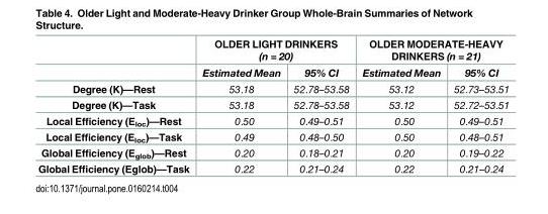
<table><thead><tr><td rowspan="2"></td><td colspan="2">OLDER LIGHT DRINKERS (n = 20)</td><td colspan="2">OLDER MODERATE-HEAVY DRINKERS (n = 21)</td></tr><tr><td>Estimated Mean</td><td>95% CI</td><td>Estimated Mean</td><td>95% CI</td></tr></thead><tbody><tr><td>Degree (K)—Rest</td><td>53.18</td><td>52.78–53.58</td><td>53.12</td><td>52.73–53.51</td></tr><tr><td>Degree (K)—Task</td><td>53.18</td><td>52.78–53.58</td><td>53.12</td><td>52.72–53.51</td></tr><tr><td>Local Efficiency (E<sub>loc</sub>)—Rest</td><td>0.50</td><td>0.49–0.51</td><td>0.50</td><td>0.49–0.51</td></tr><tr><td>Local Efficiency (E<sub>loc</sub>)—Task</td><td>0.49</td><td>0.48–0.50</td><td>0.50</td><td>0.48–0.51</td></tr><tr><td>Global Efficiency (E<sub>glob</sub>)—Rest</td><td>0.20</td><td>0.18–0.21</td><td>0.20</td><td>0.19–0.22</td></tr><tr><td>Global Efficiency (Eglob)—Task</td><td>0.22</td><td>0.21–0.24</td><td>0.22</td><td>0.21–0.24</td></tr></tbody></table>